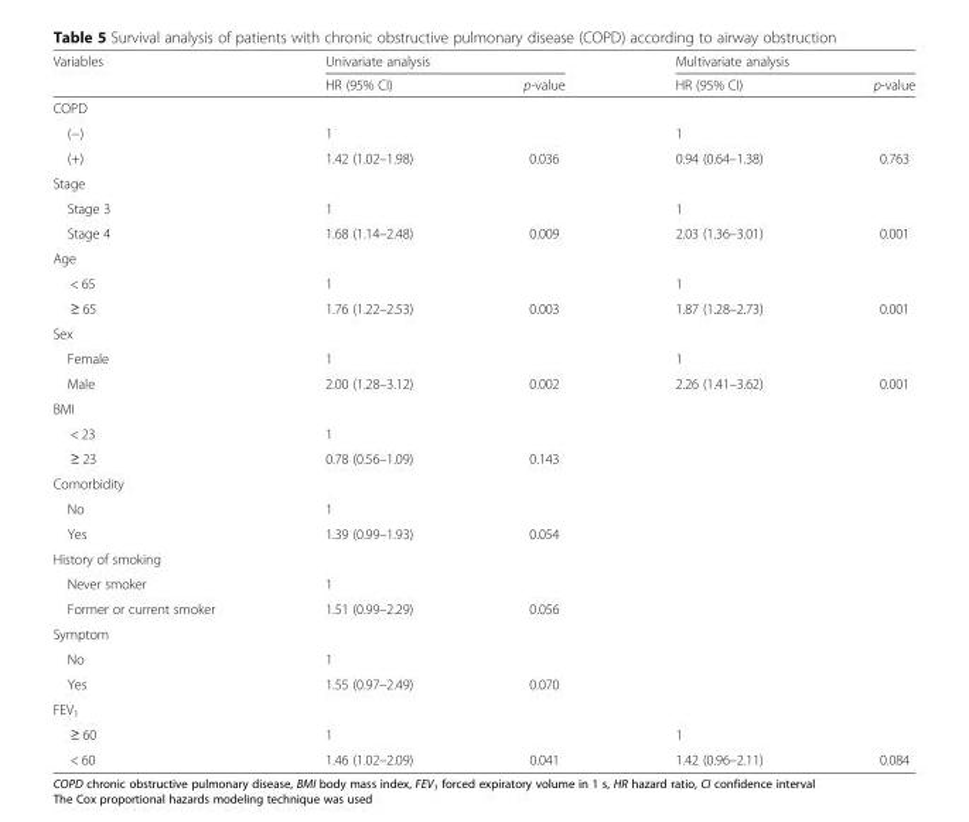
<table><thead><tr><td rowspan="2">Variables</td><td colspan="2">Univariate analysis</td><td colspan="2">Multivariate analysis</td></tr><tr><td>HR (95% CI)</td><td>p-value</td><td>HR (95% CI)</td><td>p-value</td></tr></thead><tbody><tr><td colspan="5">COPD</td></tr><tr><td>(−)</td><td>1</td><td></td><td>1</td><td></td></tr><tr><td>(+)</td><td>1.42 (1.02–1.98)</td><td>0.036</td><td>0.94 (0.64–1.38)</td><td>0.763</td></tr><tr><td colspan="5">Stage</td></tr><tr><td>Stage 3</td><td>1</td><td></td><td>1</td><td></td></tr><tr><td>Stage 4</td><td>1.68 (1.14–2.48)</td><td>0.009</td><td>2.03 (1.36–3.01)</td><td>0.001</td></tr><tr><td colspan="5">Age</td></tr><tr><td>&lt; 65</td><td>1</td><td></td><td>1</td><td></td></tr><tr><td>≥ 65</td><td>1.76 (1.22–2.53)</td><td>0.003</td><td>1.87 (1.28–2.73)</td><td>0.001</td></tr><tr><td colspan="5">Sex</td></tr><tr><td>Female</td><td>1</td><td></td><td>1</td><td></td></tr><tr><td>Male</td><td>2.00 (1.28–3.12)</td><td>0.002</td><td>2.26 (1.41–3.62)</td><td>0.001</td></tr><tr><td colspan="5">BMI</td></tr><tr><td>&lt; 23</td><td>1</td><td></td><td></td><td></td></tr><tr><td>≥ 23</td><td>0.78 (0.56–1.09)</td><td>0.143</td><td></td><td></td></tr><tr><td colspan="5">Comorbidity</td></tr><tr><td>No</td><td>1</td><td></td><td></td><td></td></tr><tr><td>Yes</td><td>1.39 (0.99–1.93)</td><td>0.054</td><td></td><td></td></tr><tr><td colspan="5">History of smoking</td></tr><tr><td>Never smoker</td><td>1</td><td></td><td></td><td></td></tr><tr><td>Former or current smoker</td><td>1.51 (0.99–2.29)</td><td>0.056</td><td></td><td></td></tr><tr><td colspan="5">Symptom</td></tr><tr><td>No</td><td>1</td><td></td><td></td><td></td></tr><tr><td>Yes</td><td>1.55 (0.97–2.49)</td><td>0.070</td><td></td><td></td></tr><tr><td colspan="5">FEV<sub>1</sub></td></tr><tr><td>≥ 60</td><td>1</td><td></td><td>1</td><td></td></tr><tr><td>&lt; 60</td><td>1.46 (1.02–2.09)</td><td>0.041</td><td>1.42 (0.96–2.11)</td><td>0.084</td></tr></tbody></table>